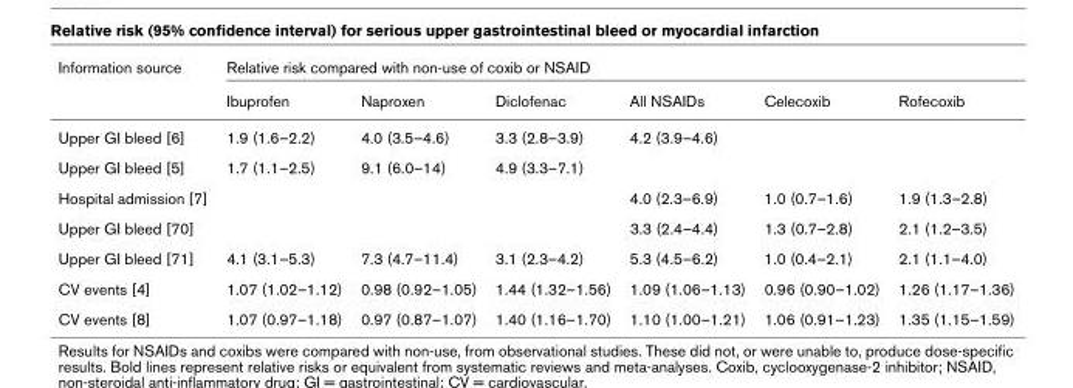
<table><thead><tr><td rowspan="2">Information source</td><td colspan="6">Relative risk compared with non-use of coxib or NSAID</td></tr><tr><td>Ibuprofen</td><td>Naproxen</td><td>Diclofenac</td><td>All NSAIDs</td><td>Celecoxib</td><td>Rofecoxib</td></tr></thead><tbody><tr><td>Upper GI bleed [6]</td><td>1.9 (1.6–2.2)</td><td>4.0 (3.5–4.6)</td><td>3.3 (2.8–3.9)</td><td>4.2 (3.9–4.6)</td><td></td><td></td></tr><tr><td>Upper GI bleed [5]</td><td>1.7 (1.1–2.5)</td><td>9.1 (6.0–14)</td><td>4.9 (3.3–7.1)</td><td></td><td></td><td></td></tr><tr><td>Hospital admission [7]</td><td></td><td></td><td></td><td>4.0 (2.3–6.9)</td><td>1.0 (0.7–1.6)</td><td>1.9 (1.3–2.8)</td></tr><tr><td>Upper GI bleed [70]</td><td></td><td></td><td></td><td>3.3 (2.4–4.4)</td><td>1.3 (0.7–2.8)</td><td>2.1 (1.2–3.5)</td></tr><tr><td>Upper GI bleed [71]</td><td>4.1 (3.1–5.3)</td><td>7.3 (4.7–11.4)</td><td>3.1 (2.3–4.2)</td><td>5.3 (4.5–6.2)</td><td>1.0 (0.4–2.1)</td><td>2.1 (1.1–4.0)</td></tr><tr><td>CV events [4]</td><td>1.07 (1.02–1.12)</td><td>0.98 (0.92–1.05)</td><td>1.44 (1.32–1.56)</td><td>1.09 (1.06–1.13)</td><td>0.96 (0.90–1.02)</td><td>1.26 (1.17–1.36)</td></tr><tr><td>CV events [8]</td><td>1.07 (0.97–1.18)</td><td>0.97 (0.87–1.07)</td><td>1.40 (1.16–1.70)</td><td>1.10 (1.00–1.21)</td><td>1.06 (0.91–1.23)</td><td>1.35 (1.15–1.59)</td></tr></tbody></table>